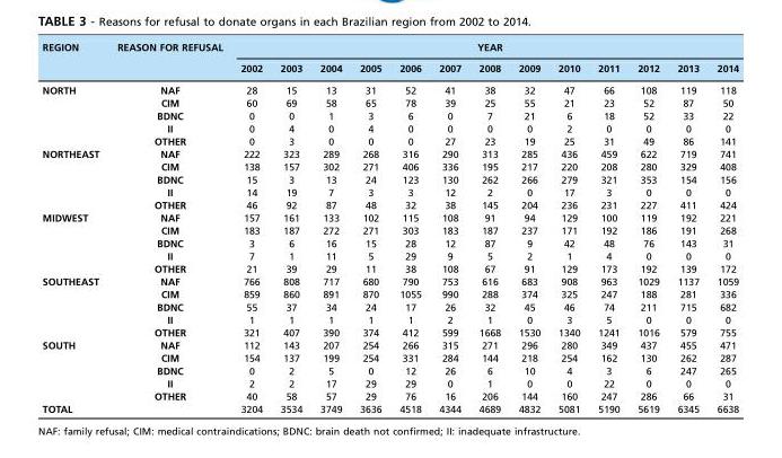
<table><thead><tr><td rowspan="2">REGION</td><td rowspan="2">REASON FOR REFUSAL</td><td colspan="13">YEAR</td></tr><tr><td>2002</td><td>2003</td><td>2004</td><td>2005</td><td>2006</td><td>2007</td><td>2008</td><td>2009</td><td>2010</td><td>2011</td><td>2012</td><td>2013</td><td>2014</td></tr></thead><tbody><tr><td rowspan="5">NORTH</td><td>NAF</td><td>28</td><td>15</td><td>13</td><td>31</td><td>52</td><td>41</td><td>38</td><td>32</td><td>47</td><td>66</td><td>108</td><td>119</td><td>118</td></tr><tr><td>CIM</td><td>60</td><td>69</td><td>58</td><td>65</td><td>78</td><td>39</td><td>25</td><td>55</td><td>21</td><td>23</td><td>52</td><td>87</td><td>50</td></tr><tr><td>BDNC</td><td>0</td><td>0</td><td>1</td><td>3</td><td>6</td><td>0</td><td>7</td><td>21</td><td>6</td><td>18</td><td>52</td><td>33</td><td>22</td></tr><tr><td>II</td><td>0</td><td>4</td><td>0</td><td>4</td><td>0</td><td>0</td><td>0</td><td>0</td><td>2</td><td>0</td><td>0</td><td>0</td><td>0</td></tr><tr><td>OTHER</td><td>0</td><td>3</td><td>0</td><td>0</td><td>0</td><td>27</td><td>23</td><td>19</td><td>25</td><td>31</td><td>49</td><td>86</td><td>141</td></tr><tr><td rowspan="5">NORTHEAST</td><td>NAF</td><td>222</td><td>323</td><td>289</td><td>268</td><td>316</td><td>290</td><td>313</td><td>285</td><td>436</td><td>459</td><td>622</td><td>719</td><td>741</td></tr><tr><td>CIM</td><td>138</td><td>157</td><td>302</td><td>271</td><td>406</td><td>336</td><td>195</td><td>217</td><td>220</td><td>208</td><td>280</td><td>329</td><td>408</td></tr><tr><td>BDNC</td><td>15</td><td>3</td><td>13</td><td>24</td><td>123</td><td>130</td><td>262</td><td>266</td><td>279</td><td>321</td><td>353</td><td>154</td><td>156</td></tr><tr><td>II</td><td>14</td><td>19</td><td>7</td><td>3</td><td>3</td><td>12</td><td>2</td><td>0</td><td>17</td><td>3</td><td>0</td><td>0</td><td>0</td></tr><tr><td>OTHER</td><td>46</td><td>92</td><td>87</td><td>48</td><td>32</td><td>38</td><td>145</td><td>204</td><td>236</td><td>231</td><td>227</td><td>411</td><td>424</td></tr><tr><td rowspan="5">MIDWEST</td><td>NAF</td><td>157</td><td>161</td><td>133</td><td>102</td><td>115</td><td>108</td><td>91</td><td>94</td><td>129</td><td>100</td><td>119</td><td>192</td><td>221</td></tr><tr><td>CIM</td><td>183</td><td>187</td><td>272</td><td>271</td><td>303</td><td>183</td><td>187</td><td>237</td><td>171</td><td>192</td><td>186</td><td>191</td><td>268</td></tr><tr><td>BDNC</td><td>3</td><td>6</td><td>16</td><td>15</td><td>28</td><td>12</td><td>87</td><td>9</td><td>42</td><td>48</td><td>76</td><td>143</td><td>31</td></tr><tr><td>II</td><td>7</td><td>1</td><td>11</td><td>5</td><td>29</td><td>9</td><td>5</td><td>2</td><td>1</td><td>4</td><td>0</td><td>0</td><td>0</td></tr><tr><td>OTHER</td><td>21</td><td>39</td><td>29</td><td>11</td><td>38</td><td>108</td><td>67</td><td>91</td><td>129</td><td>173</td><td>192</td><td>139</td><td>172</td></tr><tr><td rowspan="5">SOUTHEAST</td><td>NAF</td><td>766</td><td>808</td><td>717</td><td>680</td><td>790</td><td>753</td><td>616</td><td>683</td><td>908</td><td>963</td><td>1029</td><td>1137</td><td>1059</td></tr><tr><td>CIM</td><td>859</td><td>860</td><td>891</td><td>870</td><td>1055</td><td>990</td><td>288</td><td>374</td><td>325</td><td>247</td><td>188</td><td>281</td><td>336</td></tr><tr><td>BDNC</td><td>55</td><td>37</td><td>34</td><td>24</td><td>17</td><td>26</td><td>32</td><td>45</td><td>46</td><td>74</td><td>211</td><td>715</td><td>682</td></tr><tr><td>II</td><td>1</td><td>1</td><td>1</td><td>1</td><td>1</td><td>2</td><td>1</td><td>0</td><td>3</td><td>5</td><td>0</td><td>0</td><td>0</td></tr><tr><td>OTHER</td><td>321</td><td>407</td><td>390</td><td>374</td><td>412</td><td>599</td><td>1668</td><td>1530</td><td>1340</td><td>1241</td><td>1016</td><td>579</td><td>755</td></tr><tr><td rowspan="5">SOUTH</td><td>NAF</td><td>112</td><td>143</td><td>207</td><td>254</td><td>266</td><td>315</td><td>271</td><td>296</td><td>280</td><td>349</td><td>437</td><td>455</td><td>471</td></tr><tr><td>CIM</td><td>154</td><td>137</td><td>199</td><td>254</td><td>331</td><td>284</td><td>144</td><td>218</td><td>254</td><td>162</td><td>130</td><td>262</td><td>287</td></tr><tr><td>BDNC</td><td>0</td><td>2</td><td>5</td><td>0</td><td>12</td><td>26</td><td>6</td><td>10</td><td>4</td><td>3</td><td>6</td><td>247</td><td>265</td></tr><tr><td>II</td><td>2</td><td>2</td><td>17</td><td>29</td><td>29</td><td>0</td><td>1</td><td>0</td><td>0</td><td>22</td><td>0</td><td>0</td><td>0</td></tr><tr><td>OTHER</td><td>40</td><td>58</td><td>57</td><td>29</td><td>76</td><td>16</td><td>206</td><td>144</td><td>160</td><td>247</td><td>286</td><td>66</td><td>31</td></tr><tr><td>TOTAL</td><td></td><td>3204</td><td>3534</td><td>3749</td><td>3636</td><td>4518</td><td>4344</td><td>4689</td><td>4832</td><td>5081</td><td>5190</td><td>5619</td><td>6345</td><td>6638</td></tr></tbody></table>